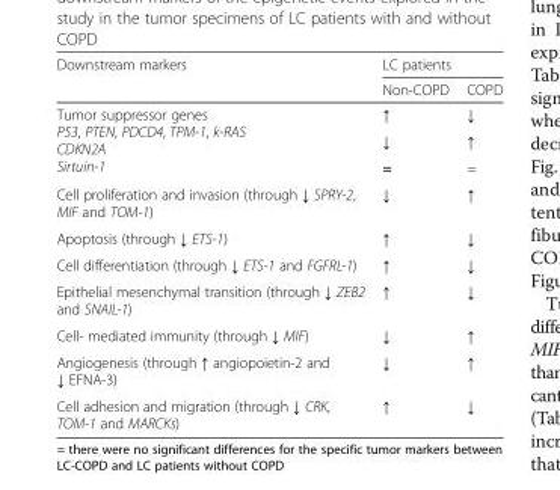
<table><thead><tr><td rowspan="2">Downstream markers</td><td colspan="2">LC patients</td></tr><tr><td>Non-COPD</td><td>COPD</td></tr></thead><tbody><tr><td rowspan="3">Tumor suppressor genes P53, PTEN, PDCD4, TPM-1, k-RAS CDKN2A Sirtuin-1</td><td>↑</td><td>↓</td></tr><tr><td>↓</td><td>↑</td></tr><tr><td>=</td><td>=</td></tr><tr><td>Cell proliferation and invasion (through ↓ SPRY-2, MIF and TOM-1)</td><td>↓</td><td>↑</td></tr><tr><td>Apoptosis (through ↓ ETS-1)</td><td>↑</td><td>↓</td></tr><tr><td>Cell differentiation (through ↓ ETS-1 and FGFRL-1)</td><td>↑</td><td>↓</td></tr><tr><td>Epithelial mesenchymal transition (through ↓ ZEB2 and SNAIL-1)</td><td>↑</td><td>↓</td></tr><tr><td>Cell- mediated immunity (through ↓ MIF)</td><td>↓</td><td>↑</td></tr><tr><td>Angiogenesis (through ↑ angiopoietin-2 and ↓ EFNA-3)</td><td>↓</td><td>↑</td></tr><tr><td>Cell adhesion and migration (through ↓ CRK, TOM-1 and MARCKs)</td><td>↑</td><td>↓</td></tr></tbody></table>